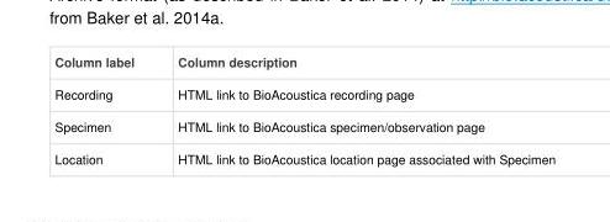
<table><thead><tr><td>Column label</td><td>Column description</td></tr></thead><tbody><tr><td>Recording</td><td>HTML link to BioAcoustica recording page</td></tr><tr><td>Specimen</td><td>HTML link to BioAcoustica specimen/observation page</td></tr><tr><td>Location</td><td>HTML link to BioAcoustica location page associated with Specimen</td></tr></tbody></table>